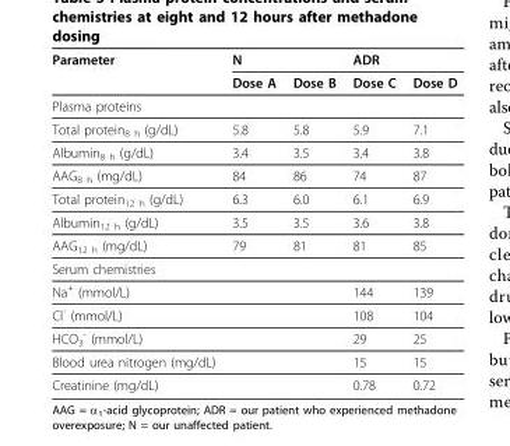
<table><thead><tr><td rowspan="2">Parameter</td><td colspan="2">N</td><td colspan="2">ADR</td></tr><tr><td>Dose A</td><td>Dose B</td><td>Dose C</td><td>Dose D</td></tr></thead><tbody><tr><td colspan="5">Plasma proteins</td></tr><tr><td>Total protein<sub>8 h</sub> (g/dL)</td><td>5.8</td><td>5.8</td><td>5.9</td><td>7.1</td></tr><tr><td>Albumin<sub>8 h</sub> (g/dL)</td><td>3.4</td><td>3.5</td><td>3.4</td><td>3.8</td></tr><tr><td>AAG<sub>8 h</sub> (mg/dL)</td><td>84</td><td>86</td><td>74</td><td>87</td></tr><tr><td>Total protein<sub>12 h</sub> (g/dL)</td><td>6.3</td><td>6.0</td><td>6.1</td><td>6.9</td></tr><tr><td>Albumin<sub>12 h</sub> (g/dL)</td><td>3.5</td><td>3.5</td><td>3.6</td><td>3.8</td></tr><tr><td>AAG<sub>12 h</sub> (mg/dL)</td><td>79</td><td>81</td><td>81</td><td>85</td></tr><tr><td colspan="5">Serum chemistries</td></tr><tr><td>Na<sup>+</sup> (mmol/L)</td><td></td><td></td><td>144</td><td>139</td></tr><tr><td>Cl<sup>-</sup> (mmol/L)</td><td></td><td></td><td>108</td><td>104</td></tr><tr><td>HCO<sub>3</sub> <sup>-</sup> (mmol/L)</td><td></td><td></td><td>29</td><td>25</td></tr><tr><td>Blood urea nitrogen (mg/dL)</td><td></td><td></td><td>15</td><td>15</td></tr><tr><td>Creatinine (mg/dL)</td><td></td><td></td><td>0.78</td><td>0.72</td></tr></tbody></table>